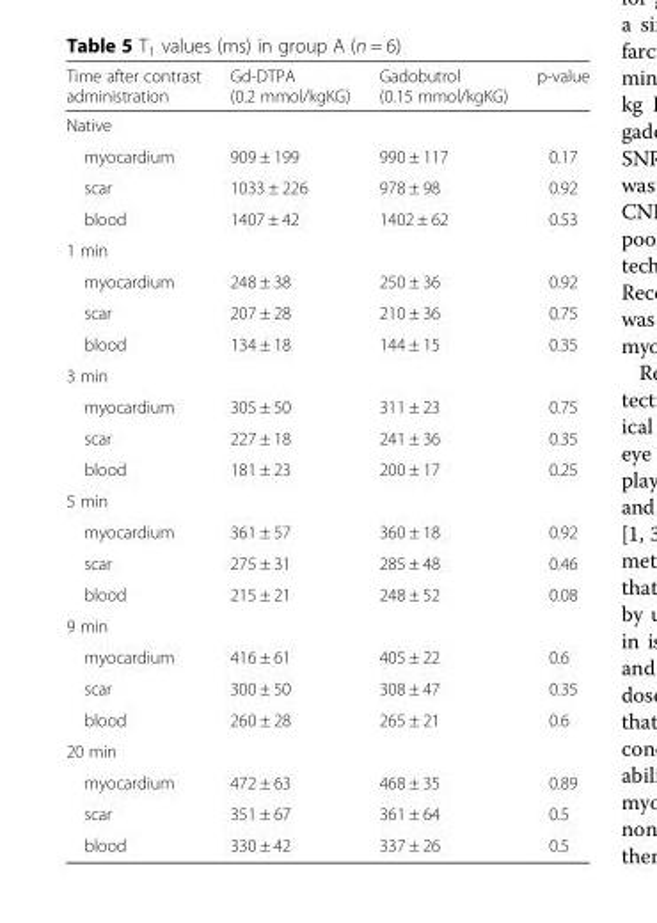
<table><thead><tr><td>Time after contrast administration</td><td>Gd-DTPA (0.2 mmol/kgKG)</td><td>Gadobutrol (0.15 mmol/kgKG)</td><td>p-value</td></tr></thead><tbody><tr><td colspan="4">Native</td></tr><tr><td>myocardium</td><td>909 ± 199</td><td>990 ± 117</td><td>0.17</td></tr><tr><td>scar</td><td>1033 ± 226</td><td>978 ± 98</td><td>0.92</td></tr><tr><td>blood</td><td>1407 ± 42</td><td>1402 ± 62</td><td>0.53</td></tr><tr><td colspan="4">1 min</td></tr><tr><td>myocardium</td><td>248 ± 38</td><td>250 ± 36</td><td>0.92</td></tr><tr><td>scar</td><td>207 ± 28</td><td>210 ± 36</td><td>0.75</td></tr><tr><td>blood</td><td>134 ± 18</td><td>144 ± 15</td><td>0.35</td></tr><tr><td colspan="4">3 min</td></tr><tr><td>myocardium</td><td>305 ± 50</td><td>311 ± 23</td><td>0.75</td></tr><tr><td>scar</td><td>227 ± 18</td><td>241 ± 36</td><td>0.35</td></tr><tr><td>blood</td><td>181 ± 23</td><td>200 ± 17</td><td>0.25</td></tr><tr><td colspan="4">5 min</td></tr><tr><td>myocardium</td><td>361 ± 57</td><td>360 ± 18</td><td>0.92</td></tr><tr><td>scar</td><td>275 ± 31</td><td>285 ± 48</td><td>0.46</td></tr><tr><td>blood</td><td>215 ± 21</td><td>248 ± 52</td><td>0.08</td></tr><tr><td colspan="4">9 min</td></tr><tr><td>myocardium</td><td>416 ± 61</td><td>405 ± 22</td><td>0.6</td></tr><tr><td>scar</td><td>300 ± 50</td><td>308 ± 47</td><td>0.35</td></tr><tr><td>blood</td><td>260 ± 28</td><td>265 ± 21</td><td>0.6</td></tr><tr><td colspan="4">20 min</td></tr><tr><td>myocardium</td><td>472 ± 63</td><td>468 ± 35</td><td>0.89</td></tr><tr><td>scar</td><td>351 ± 67</td><td>361 ± 64</td><td>0.5</td></tr><tr><td>blood</td><td>330 ± 42</td><td>337 ± 26</td><td>0.5</td></tr></tbody></table>